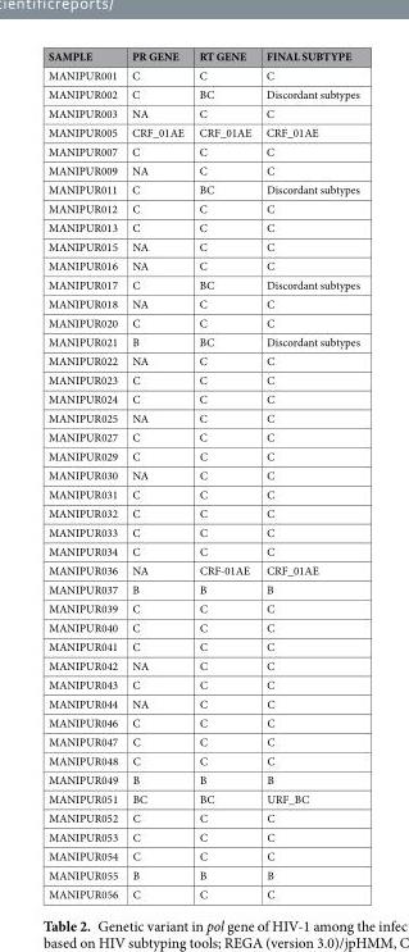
<table><thead><tr><td>SAMPLE</td><td>PR GENE</td><td>RT GENE</td><td>FINAL SUBTYPE</td></tr></thead><tbody><tr><td>MANIPUR001</td><td>C</td><td>C</td><td>C</td></tr><tr><td>MANIPUR002</td><td>C</td><td>BC</td><td>Discordant subtypes</td></tr><tr><td>MANIPUR003</td><td>NA</td><td>C</td><td>C</td></tr><tr><td>MANIPUR005</td><td>CRF_01AE</td><td>CRF_01AE</td><td>CRF_01AE</td></tr><tr><td>MANIPUR007</td><td>C</td><td>C</td><td>C</td></tr><tr><td>MANIPUR009</td><td>NA</td><td>C</td><td>C</td></tr><tr><td>MANIPUR011</td><td>C</td><td>BC</td><td>Discordant subtypes</td></tr><tr><td>MANIPUR012</td><td>C</td><td>C</td><td>C</td></tr><tr><td>MANIPUR013</td><td>C</td><td>C</td><td>C</td></tr><tr><td>MANIPUR015</td><td>NA</td><td>C</td><td>C</td></tr><tr><td>MANIPUR016</td><td>NA</td><td>C</td><td>C</td></tr><tr><td>MANIPUR017</td><td>C</td><td>BC</td><td>Discordant subtypes</td></tr><tr><td>MANIPUR018</td><td>NA</td><td>C</td><td>C</td></tr><tr><td>MANIPUR020</td><td>C</td><td>C</td><td>C</td></tr><tr><td>MANIPUR021</td><td>B</td><td>BC</td><td>Discordant subtypes</td></tr><tr><td>MANIPUR022</td><td>NA</td><td>C</td><td>C</td></tr><tr><td>MANIPUR023</td><td>C</td><td>C</td><td>C</td></tr><tr><td>MANIPUR024</td><td>C</td><td>C</td><td>C</td></tr><tr><td>MANIPUR025</td><td>NA</td><td>C</td><td>C</td></tr><tr><td>MANIPUR027</td><td>C</td><td>C</td><td>C</td></tr><tr><td>MANIPUR029</td><td>C</td><td>C</td><td>C</td></tr><tr><td>MANIPUR030</td><td>NA</td><td>C</td><td>C</td></tr><tr><td>MANIPUR031</td><td>C</td><td>C</td><td>C</td></tr><tr><td>MANIPUR032</td><td>C</td><td>C</td><td>C</td></tr><tr><td>MANIPUR033</td><td>C</td><td>C</td><td>C</td></tr><tr><td>MANIPUR034</td><td>C</td><td>C</td><td>C</td></tr><tr><td>MANIPUR036</td><td>NA</td><td>CRF-01AE</td><td>CRF_01AE</td></tr><tr><td>MANIPUR037</td><td>B</td><td>B</td><td>B</td></tr><tr><td>MANIPUR039</td><td>C</td><td>C</td><td>C</td></tr><tr><td>MANIPUR040</td><td>C</td><td>C</td><td>C</td></tr><tr><td>MANIPUR041</td><td>C</td><td>C</td><td>C</td></tr><tr><td>MANIPUR042</td><td>NA</td><td>C</td><td>C</td></tr><tr><td>MANIPUR043</td><td>C</td><td>C</td><td>C</td></tr><tr><td>MANIPUR044</td><td>NA</td><td>C</td><td>C</td></tr><tr><td>MANIPUR046</td><td>C</td><td>C</td><td>C</td></tr><tr><td>MANIPUR047</td><td>C</td><td>C</td><td>C</td></tr><tr><td>MANIPUR048</td><td>C</td><td>C</td><td>C</td></tr><tr><td>MANIPUR049</td><td>B</td><td>B</td><td>B</td></tr><tr><td>MANIPUR051</td><td>BC</td><td>BC</td><td>URF_BC</td></tr><tr><td>MANIPUR052</td><td>C</td><td>C</td><td>C</td></tr><tr><td>MANIPUR053</td><td>C</td><td>C</td><td>C</td></tr><tr><td>MANIPUR054</td><td>C</td><td>C</td><td>C</td></tr><tr><td>MANIPUR055</td><td>B</td><td>B</td><td>B</td></tr><tr><td>MANIPUR056</td><td>C</td><td>C</td><td>C</td></tr></tbody></table>